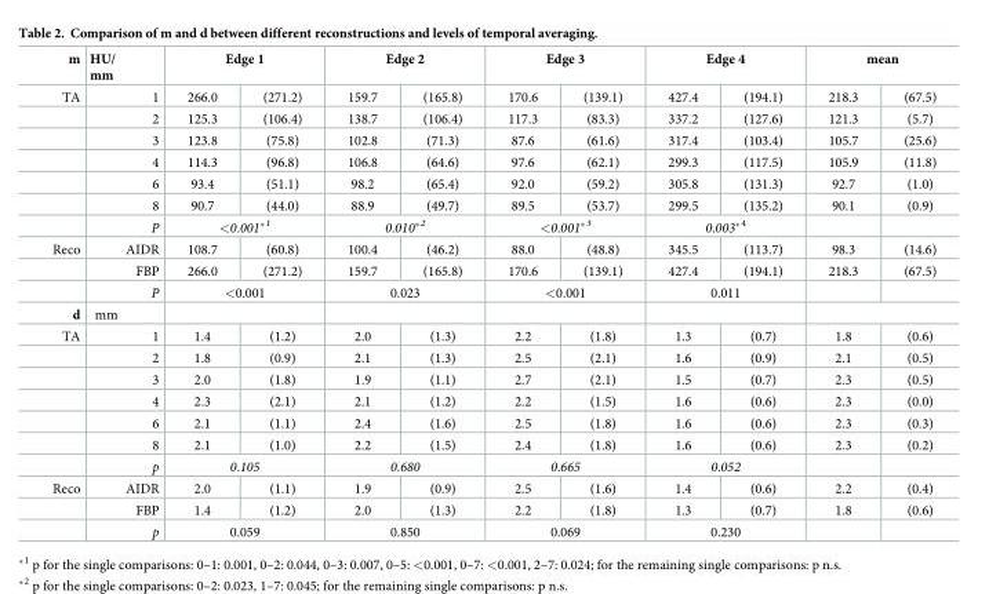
<table><thead><tr><td rowspan="2">m TA</td><td rowspan="2">HU/ mm 1</td><td colspan="2">Edge 1</td><td colspan="2">Edge 2</td><td colspan="2">Edge 3</td><td colspan="2">Edge 4</td><td colspan="2">mean</td></tr><tr><td>266.0</td><td>(271.2)</td><td>159.7</td><td>(165.8)</td><td>170.6</td><td>(139.1)</td><td>427.4</td><td>(194.1)</td><td>218.3</td><td>(67.5)</td></tr></thead><tbody><tr><td></td><td>2</td><td>125.3</td><td>(106.4)</td><td>138.7</td><td>(106.4)</td><td>117.3</td><td>(83.3)</td><td>337.2</td><td>(127.6)</td><td>121.3</td><td>(5.7)</td></tr><tr><td></td><td>3</td><td>123.8</td><td>(75.8)</td><td>102.8</td><td>(71.3)</td><td>87.6</td><td>(61.6)</td><td>317.4</td><td>(103.4)</td><td>105.7</td><td>(25.6)</td></tr><tr><td></td><td>4</td><td>114.3</td><td>(96.8)</td><td>106.8</td><td>(64.6)</td><td>97.6</td><td>(62.1)</td><td>299.3</td><td>(117.5)</td><td>105.9</td><td>(11.8)</td></tr><tr><td></td><td>6</td><td>93.4</td><td>(51.1)</td><td>98.2</td><td>(65.4)</td><td>92.0</td><td>(59.2)</td><td>305.8</td><td>(131.3)</td><td>92.7</td><td>(1.0)</td></tr><tr><td></td><td>8</td><td>90.7</td><td>(44.0)</td><td>88.9</td><td>(49.7)</td><td>89.5</td><td>(53.7)</td><td>299.5</td><td>(135.2)</td><td>90.1</td><td>(0.9)</td></tr><tr><td></td><td>P</td><td colspan="2">&lt;0.001*<sup>1</sup></td><td colspan="2">0.010*<sup>2</sup></td><td colspan="2">&lt;0.001*<sup>3</sup></td><td colspan="2">0.003*<sup>4</sup></td><td></td><td></td></tr><tr><td rowspan="3">Reco</td><td>AIDR</td><td>108.7</td><td>(60.8)</td><td>100.4</td><td>(46.2)</td><td>88.0</td><td>(48.8)</td><td>345.5</td><td>(113.7)</td><td>98.3</td><td>(14.6)</td></tr><tr><td>FBP</td><td>266.0</td><td>(271.2)</td><td>159.7</td><td>(165.8)</td><td>170.6</td><td>(139.1)</td><td>427.4</td><td>(194.1)</td><td>218.3</td><td>(67.5)</td></tr><tr><td>P</td><td colspan="2">&lt;0.001</td><td colspan="2">0.023</td><td colspan="2">&lt;0.001</td><td colspan="2">0.011</td><td></td><td></td></tr><tr><td>d</td><td>mm</td><td colspan="2"></td><td colspan="2"></td><td colspan="2"></td><td colspan="2"></td><td colspan="2"></td></tr><tr><td rowspan="7">TA</td><td>1</td><td>1.4</td><td>(1.2)</td><td>2.0</td><td>(1.3)</td><td>2.2</td><td>(1.8)</td><td>1.3</td><td>(0.7)</td><td>1.8</td><td>(0.6)</td></tr><tr><td>2</td><td>1.8</td><td>(0.9)</td><td>2.1</td><td>(1.3)</td><td>2.5</td><td>(2.1)</td><td>1.6</td><td>(0.9)</td><td>2.1</td><td>(0.5)</td></tr><tr><td>3</td><td>2.0</td><td>(1.8)</td><td>1.9</td><td>(1.1)</td><td>2.7</td><td>(2.1)</td><td>1.5</td><td>(0.7)</td><td>2.3</td><td>(0.5)</td></tr><tr><td>4</td><td>2.3</td><td>(2.1)</td><td>2.1</td><td>(1.2)</td><td>2.2</td><td>(1.5)</td><td>1.6</td><td>(0.6)</td><td>2.3</td><td>(0.0)</td></tr><tr><td>6</td><td>2.1</td><td>(1.1)</td><td>2.4</td><td>(1.6)</td><td>2.5</td><td>(1.8)</td><td>1.6</td><td>(0.6)</td><td>2.3</td><td>(0.3)</td></tr><tr><td>8</td><td>2.1</td><td>(1.0)</td><td>2.2</td><td>(1.5)</td><td>2.4</td><td>(1.8)</td><td>1.6</td><td>(0.6)</td><td>2.3</td><td>(0.2)</td></tr><tr><td>p</td><td colspan="2">0.105</td><td colspan="2">0.680</td><td colspan="2">0.665</td><td colspan="2">0.052</td><td></td><td></td></tr><tr><td rowspan="3">Reco</td><td>AIDR</td><td>2.0</td><td>(1.1)</td><td>1.9</td><td>(0.9)</td><td>2.5</td><td>(1.6)</td><td>1.4</td><td>(0.6)</td><td>2.2</td><td>(0.4)</td></tr><tr><td>FBP</td><td>1.4</td><td>(1.2)</td><td>2.0</td><td>(1.3)</td><td>2.2</td><td>(1.8)</td><td>1.3</td><td>(0.7)</td><td>1.8</td><td>(0.6)</td></tr><tr><td>p</td><td colspan="2">0.059</td><td colspan="2">0.850</td><td colspan="2">0.069</td><td colspan="2">0.230</td><td></td><td></td></tr></tbody></table>